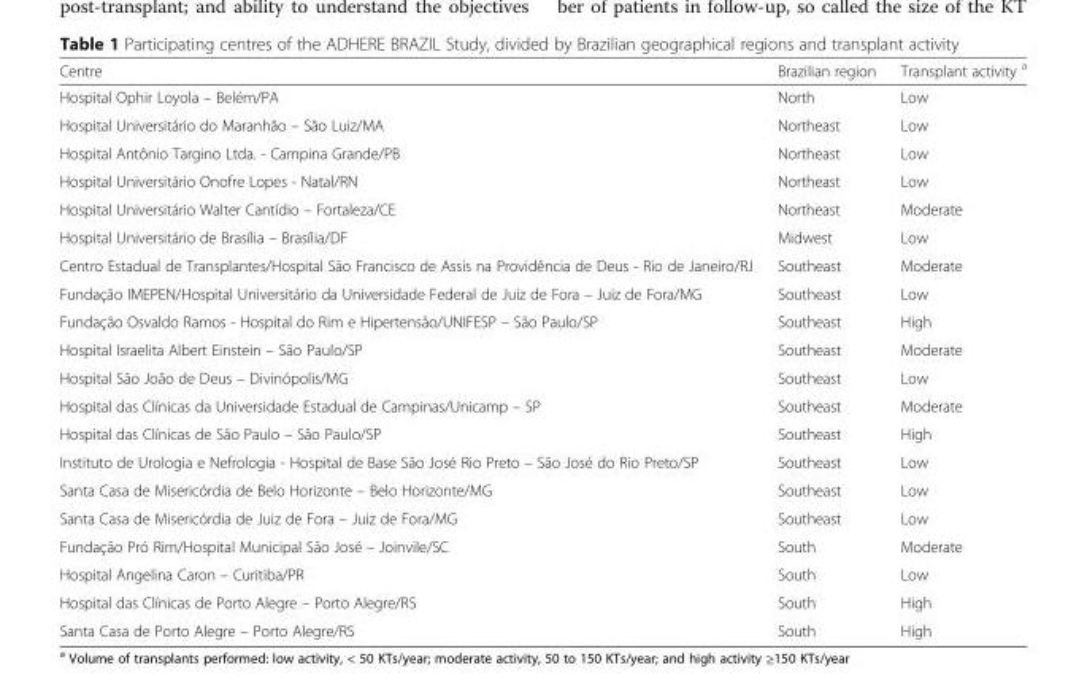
<table><thead><tr><td>Centre</td><td>Brazilian region</td><td>Transplant activity <sup>a</sup></td></tr></thead><tbody><tr><td>Hospital Ophir Loyola – Belém/PA</td><td>North</td><td>Low</td></tr><tr><td>Hospital Universitário do Maranhão – São Luiz/MA</td><td>Northeast</td><td>Low</td></tr><tr><td>Hospital Antônio Targino Ltda. - Campina Grande/PB</td><td>Northeast</td><td>Low</td></tr><tr><td>Hospital Universitário Onofre Lopes - Natal/RN</td><td>Northeast</td><td>Low</td></tr><tr><td>Hospital Universitário Walter Cantídio – Fortaleza/CE</td><td>Northeast</td><td>Moderate</td></tr><tr><td>Hospital Universitário de Brasília – Brasília/DF</td><td>Midwest</td><td>Low</td></tr><tr><td>Centro Estadual de Transplantes/Hospital São Francisco de Assis na Providência de Deus - Rio de Janeiro/RJ</td><td>Southeast</td><td>Moderate</td></tr><tr><td>Fundação IMEPEN/Hospital Universitário da Universidade Federal de Juiz de Fora – Juiz de Fora/MG</td><td>Southeast</td><td>Low</td></tr><tr><td>Fundação Osvaldo Ramos - Hospital do Rim e Hipertensão/UNIFESP – São Paulo/SP</td><td>Southeast</td><td>High</td></tr><tr><td>Hospital Israelita Albert Einstein – São Paulo/SP</td><td>Southeast</td><td>Moderate</td></tr><tr><td>Hospital São João de Deus – Divinópolis/MG</td><td>Southeast</td><td>Low</td></tr><tr><td>Hospital das Clínicas da Universidade Estadual de Campinas/Unicamp – SP</td><td>Southeast</td><td>Moderate</td></tr><tr><td>Hospital das Clínicas de São Paulo – São Paulo/SP</td><td>Southeast</td><td>High</td></tr><tr><td>Instituto de Urologia e Nefrologia - Hospital de Base São José Rio Preto – São José do Rio Preto/SP</td><td>Southeast</td><td>Low</td></tr><tr><td>Santa Casa de Misericórdia de Belo Horizonte – Belo Horizonte/MG</td><td>Southeast</td><td>Low</td></tr><tr><td>Santa Casa de Misericórdia de Juiz de Fora – Juiz de Fora/MG</td><td>Southeast</td><td>Low</td></tr><tr><td>Fundação Pró Rim/Hospital Municipal São José – Joinvile/SC</td><td>South</td><td>Moderate</td></tr><tr><td>Hospital Angelina Caron – Curitiba/PR</td><td>South</td><td>Low</td></tr><tr><td>Hospital das Clínicas de Porto Alegre – Porto Alegre/RS</td><td>South</td><td>High</td></tr><tr><td>Santa Casa de Porto Alegre – Porto Alegre/RS</td><td>South</td><td>High</td></tr></tbody></table>